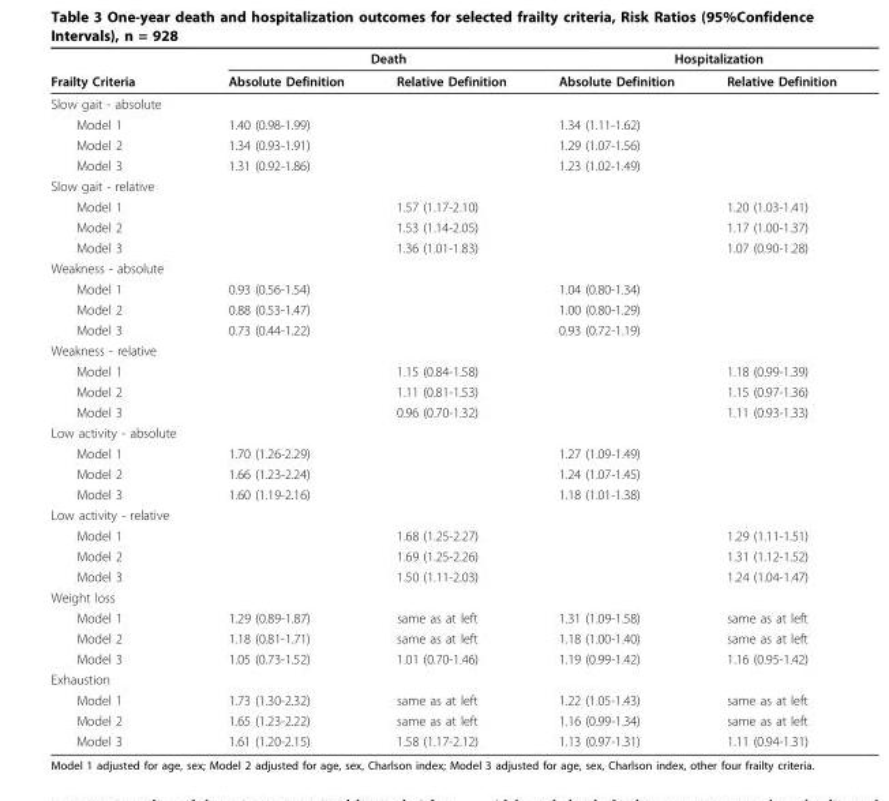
<table><thead><tr><td rowspan="2">Frailty Criteria</td><td colspan="2">Death</td><td colspan="2">Hospitalization</td></tr><tr><td>Absolute Definition</td><td>Relative Definition</td><td>Absolute Definition</td><td>Relative Definition</td></tr></thead><tbody><tr><td colspan="5">Slow gait - absolute</td></tr><tr><td>Model 1</td><td>1.40 (0.98-1.99)</td><td></td><td>1.34 (1.11-1.62)</td><td></td></tr><tr><td>Model 2</td><td>1.34 (0.93-1.91)</td><td></td><td>1.29 (1.07-1.56)</td><td></td></tr><tr><td>Model 3</td><td>1.31 (0.92-1.86)</td><td></td><td>1.23 (1.02-1.49)</td><td></td></tr><tr><td colspan="5">Slow gait - relative</td></tr><tr><td>Model 1</td><td></td><td>1.57 (1.17-2.10)</td><td></td><td>1.20 (1.03-1.41)</td></tr><tr><td>Model 2</td><td></td><td>1.53 (1.14-2.05)</td><td></td><td>1.17 (1.00-1.37)</td></tr><tr><td>Model 3</td><td></td><td>1.36 (1.01-1.83)</td><td></td><td>1.07 (0.90-1.28)</td></tr><tr><td colspan="5">Weakness - absolute</td></tr><tr><td>Model 1</td><td>0.93 (0.56-1.54)</td><td></td><td>1.04 (0.80-1.34)</td><td></td></tr><tr><td>Model 2</td><td>0.88 (0.53-1.47)</td><td></td><td>1.00 (0.80-1.29)</td><td></td></tr><tr><td>Model 3</td><td>0.73 (0.44-1.22)</td><td></td><td>0.93 (0.72-1.19)</td><td></td></tr><tr><td colspan="5">Weakness - relative</td></tr><tr><td>Model 1</td><td></td><td>1.15 (0.84-1.58)</td><td></td><td>1.18 (0.99-1.39)</td></tr><tr><td>Model 2</td><td></td><td>1.11 (0.81-1.53)</td><td></td><td>1.15 (0.97-1.36)</td></tr><tr><td>Model 3</td><td></td><td>0.96 (0.70-1.32)</td><td></td><td>1.11 (0.93-1.33)</td></tr><tr><td colspan="5">Low activity - absolute</td></tr><tr><td>Model 1</td><td>1.70 (1.26-2.29)</td><td></td><td>1.27 (1.09-1.49)</td><td></td></tr><tr><td>Model 2</td><td>1.66 (1.23-2.24)</td><td></td><td>1.24 (1.07-1.45)</td><td></td></tr><tr><td>Model 3</td><td>1.60 (1.19-2.16)</td><td></td><td>1.18 (1.01-1.38)</td><td></td></tr><tr><td colspan="5">Low activity - relative</td></tr><tr><td>Model 1</td><td></td><td>1.68 (1.25-2.27)</td><td></td><td>1.29 (1.11-1.51)</td></tr><tr><td>Model 2</td><td></td><td>1.69 (1.25-2.26)</td><td></td><td>1.31 (1.12-1.52)</td></tr><tr><td>Model 3</td><td></td><td>1.50 (1.11-2.03)</td><td></td><td>1.24 (1.04-1.47)</td></tr><tr><td colspan="5">Weight loss</td></tr><tr><td>Model 1</td><td>1.29 (0.89-1.87)</td><td>same as at left</td><td>1.31 (1.09-1.58)</td><td>same as at left</td></tr><tr><td>Model 2</td><td>1.18 (0.81-1.71)</td><td>same as at left</td><td>1.18 (1.00-1.40)</td><td>same as at left</td></tr><tr><td>Model 3</td><td>1.05 (0.73-1.52)</td><td>1.01 (0.70-1.46)</td><td>1.19 (0.99-1.42)</td><td>1.16 (0.95-1.42)</td></tr><tr><td colspan="5">Exhaustion</td></tr><tr><td>Model 1</td><td>1.73 (1.30-2.32)</td><td>same as at left</td><td>1.22 (1.05-1.43)</td><td>same as at left</td></tr><tr><td>Model 2</td><td>1.65 (1.23-2.22)</td><td>same as at left</td><td>1.16 (0.99-1.34)</td><td>same as at left</td></tr><tr><td>Model 3</td><td>1.61 (1.20-2.15)</td><td>1.58 (1.17-2.12)</td><td>1.13 (0.97-1.31)</td><td>1.11 (0.94-1.31)</td></tr></tbody></table>